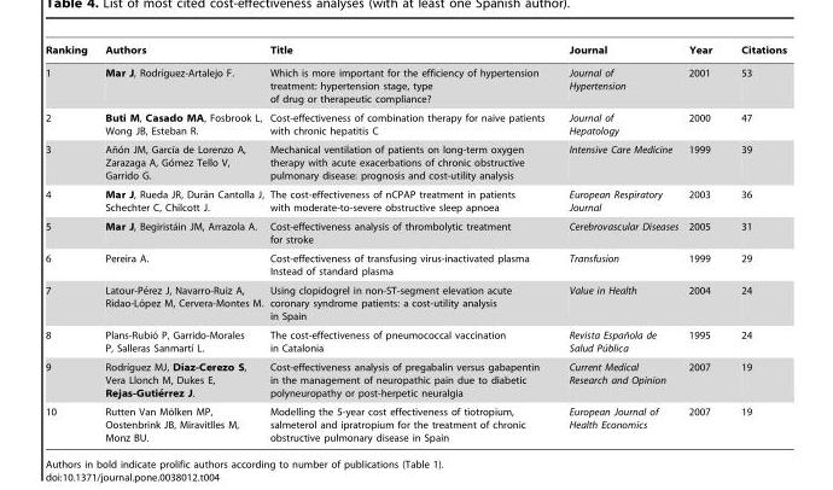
<table><thead><tr><td>Ranking</td><td>Authors</td><td>Title</td><td>Journal</td><td>Year</td><td>Citations</td></tr></thead><tbody><tr><td>1</td><td>Mar J, Rodrı´guez-Artalejo F.</td><td>Which is more important for the efficiency of hypertension treatment: hypertension stage, type of drug or therapeutic compliance?</td><td>Journal of Hypertension</td><td>2001</td><td>53</td></tr><tr><td>2</td><td>Buti M, Casado MA, Fosbrook L, Wong JB, Esteban R.</td><td>Cost-effectiveness of combination therapy for naive patients with chronic hepatitis C</td><td>Journal of Hepatology</td><td>2000</td><td>47</td></tr><tr><td>3</td><td>An˜o´n JM, Garcı´a de Lorenzo A, Zarazaga A, Go´mez Tello V, Garrido G.</td><td>Mechanical ventilation of patients on long-term oxygen therapy with acute exacerbations of chronic obstructive pulmonary disease: prognosis and cost-utility analysis</td><td>Intensive Care Medicine</td><td>1999</td><td>39</td></tr><tr><td>4</td><td>Mar J, Rueda JR, Dura´n Cantolla J, Schechter C, Chilcott J.</td><td>The cost-effectiveness of nCPAP treatment in patients with moderate-to-severe obstructive sleep apnoea</td><td>European Respiratory Journal</td><td>2003</td><td>36</td></tr><tr><td>5</td><td>Mar J, Begirista´in JM, Arrazola A.</td><td>Cost-effectiveness analysis of thrombolytic treatment for stroke</td><td>Cerebrovascular Diseases</td><td>2005</td><td>31</td></tr><tr><td>6</td><td>Pereira A.</td><td>Cost-effectiveness of transfusing virus-inactivated plasma Instead of standard plasma</td><td>Transfusion</td><td>1999</td><td>29</td></tr><tr><td>7</td><td>Latour-Pe´rez J, Navarro-Ruiz A, Ridao-Lo´pez M, Cervera-Montes M.</td><td>Using clopidogrel in non-ST-segment elevation acute coronary syndrome patients: a cost-utility analysis in Spain</td><td>Value in Health</td><td>2004</td><td>24</td></tr><tr><td>8</td><td>Plans-Rubio´ P, Garrido-Morales P, Salleras Sanmartı´ L.</td><td>The cost-effectiveness of pneumococcal vaccination in Catalonia</td><td>Revista Espan˜ola de Salud Pu´blica</td><td>1995</td><td>24</td></tr><tr><td>9</td><td>Rodrı´guez MJ, Dı´az-Cerezo S, Vera Llonch M, Dukes E, Rejas-Gutie´rrez J.</td><td>Cost-effectiveness analysis of pregabalin versus gabapentin in the management of neuropathic pain due to diabetic polyneuropathy or post-herpetic neuralgia</td><td>Current Medical Research and Opinion</td><td>2007</td><td>19</td></tr><tr><td>10</td><td>Rutten Van Mo¨lken MP, Oostenbrink JB, Miravitlles M, Monz BU.</td><td>Modelling the 5-year cost effectiveness of tiotropium, salmeterol and ipratropium for the treatment of chronic obstructive pulmonary disease in Spain</td><td>European Journal of Health Economics</td><td>2007</td><td>19</td></tr></tbody></table>